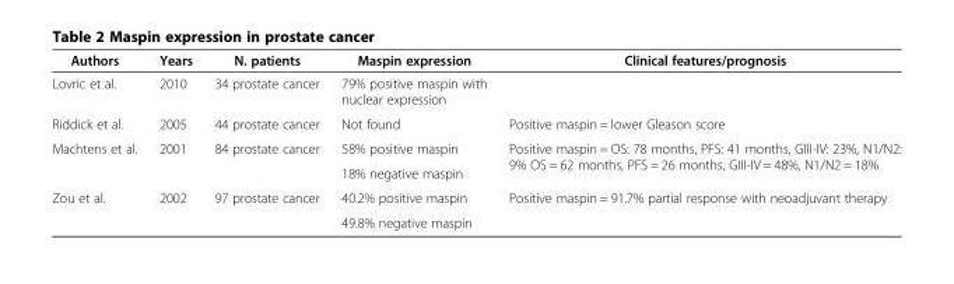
<table><thead><tr><td>Authors</td><td>Years</td><td>N. patients</td><td>Maspin expression</td><td>Clinical features/prognosis</td></tr></thead><tbody><tr><td>Lovric et al.</td><td>2010</td><td>34 prostate cancer</td><td>79% positive maspin with nuclear expression</td><td></td></tr><tr><td>Riddick et al.</td><td>2005</td><td>44 prostate cancer</td><td>Not found</td><td>Positive maspin = lower Gleason score</td></tr><tr><td rowspan="2">Machtens et al.</td><td rowspan="2">2001</td><td rowspan="2">84 prostate cancer</td><td>58% positive maspin</td><td rowspan="2">Positive maspin = OS: 78 months, PFS: 41 months, GIII-IV: 23%, N1/N2: 9% OS = 62 months, PFS = 26 months, GIII-IV = 48%, N1/N2 = 18%</td></tr><tr><td>18% negative maspin</td></tr><tr><td rowspan="2">Zou et al.</td><td>2002</td><td>97 prostate cancer</td><td>40.2% positive maspin</td><td>Positive maspin = 91.7% partial response with neoadjuvant therapy</td></tr><tr><td></td><td></td><td>49.8% negative maspin</td><td></td></tr></tbody></table>